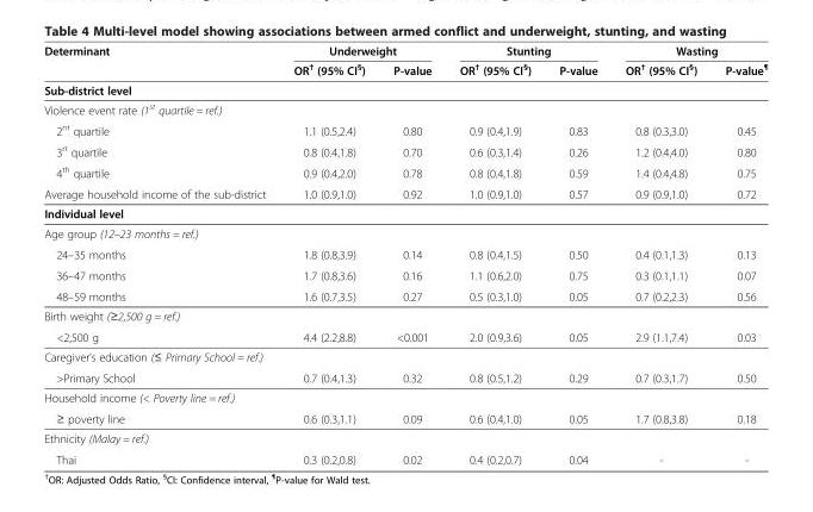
<table><thead><tr><td rowspan="2">Determinant</td><td colspan="2">Underweight</td><td colspan="2">Stunting</td><td colspan="2">Wasting</td></tr><tr><td>OR<sup>†</sup> (95% CI<sup>§</sup>)</td><td>P-value</td><td>OR<sup>†</sup> (95% CI<sup>§</sup>)</td><td>P-value</td><td>OR<sup>†</sup> (95% CI<sup>§</sup>)</td><td>P-value<sup>¶</sup></td></tr></thead><tbody><tr><td colspan="7">Sub-district level</td></tr><tr><td colspan="7">Violence event rate (1<sup>st</sup> quartile = ref.)</td></tr><tr><td>2<sup>nt</sup> quartile</td><td>1.1 (0.5,2.4)</td><td>0.80</td><td>0.9 (0.4,1.9)</td><td>0.83</td><td>0.8 (0.3,3.0)</td><td>0.45</td></tr><tr><td>3<sup>rt</sup> quartile</td><td>0.8 (0.4,1.8)</td><td>0.70</td><td>0.6 (0.3,1.4)</td><td>0.26</td><td>1.2 (0.4,4.0)</td><td>0.80</td></tr><tr><td>4<sup>th</sup> quartile</td><td>0.9 (0.4,2.0)</td><td>0.78</td><td>0.8 (0.4,1.8)</td><td>0.59</td><td>1.4 (0.4,4.8)</td><td>0.75</td></tr><tr><td>Average household income of the sub-district</td><td>1.0 (0.9,1.0)</td><td>0.92</td><td>1.0 (0.9,1.0)</td><td>0.57</td><td>0.9 (0.9,1.0)</td><td>0.72</td></tr><tr><td colspan="7">Individual level</td></tr><tr><td colspan="7">Age group (12–23 months = ref.)</td></tr><tr><td>24–35 months</td><td>1.8 (0.8,3.9)</td><td>0.14</td><td>0.8 (0.4,1.5)</td><td>0.50</td><td>0.4 (0.1,1.3)</td><td>0.13</td></tr><tr><td>36–47 months</td><td>1.7 (0.8,3.6)</td><td>0.16</td><td>1.1 (0.6,2.0)</td><td>0.75</td><td>0.3 (0.1,1.1)</td><td>0.07</td></tr><tr><td>48–59 months</td><td>1.6 (0.7,3.5)</td><td>0.27</td><td>0.5 (0.3,1.0)</td><td>0.05</td><td>0.7 (0.2,2.3)</td><td>0.56</td></tr><tr><td colspan="7">Birth weight (≥2,500 g = ref.)</td></tr><tr><td>&lt;2,500 g</td><td>4.4 (2.2,8.8)</td><td>&lt;0.001</td><td>2.0 (0.9,3.6)</td><td>0.05</td><td>2.9 (1.1,7.4)</td><td>0.03</td></tr><tr><td colspan="7">Caregiver’s education (≤ Primary School = ref.)</td></tr><tr><td>&gt;Primary School</td><td>0.7 (0.4,1.3)</td><td>0.32</td><td>0.8 (0.5,1.2)</td><td>0.29</td><td>0.7 (0.3,1.7)</td><td>0.50</td></tr><tr><td colspan="7">Household income (&lt; Poverty line = ref.)</td></tr><tr><td>≥ poverty line</td><td>0.6 (0.3,1.1)</td><td>0.09</td><td>0.6 (0.4,1.0)</td><td>0.05</td><td>1.7 (0.8,3.8)</td><td>0.18</td></tr><tr><td colspan="7">Ethnicity (Malay = ref.)</td></tr><tr><td>Thai</td><td>0.3 (0.2,0.8)</td><td>0.02</td><td>0.4 (0.2,0.7)</td><td>0.04</td><td>-</td><td>-</td></tr></tbody></table>